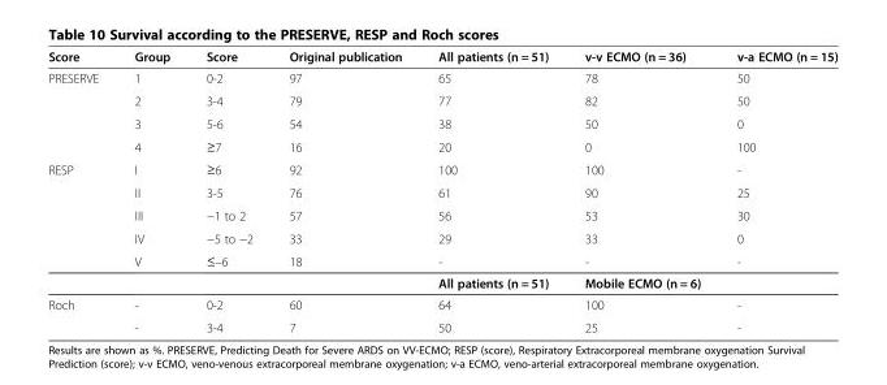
<table><thead><tr><td>Score</td><td>Group</td><td>Score</td><td>Original publication</td><td>All patients (n = 51)</td><td>v-v ECMO (n = 36)</td><td>v-a ECMO (n = 15)</td></tr></thead><tbody><tr><td rowspan="4">PRESERVE</td><td>1</td><td>0-2</td><td>97</td><td>65</td><td>78</td><td>50</td></tr><tr><td>2</td><td>3-4</td><td>79</td><td>77</td><td>82</td><td>50</td></tr><tr><td>3</td><td>5-6</td><td>54</td><td>38</td><td>50</td><td>0</td></tr><tr><td>4</td><td>≥7</td><td>16</td><td>20</td><td>0</td><td>100</td></tr><tr><td rowspan="6">RESP</td><td>I</td><td>≥6</td><td>92</td><td>100</td><td>100</td><td>-</td></tr><tr><td>II</td><td>3-5</td><td>76</td><td>61</td><td>90</td><td>25</td></tr><tr><td>III</td><td>−1 to 2</td><td>57</td><td>56</td><td>53</td><td>30</td></tr><tr><td>IV</td><td>−5 to −2</td><td>33</td><td>29</td><td>33</td><td>0</td></tr><tr><td>V</td><td>≤–6</td><td>18</td><td>-</td><td>-</td><td>-</td></tr><tr><td></td><td></td><td></td><td>All patients (n = 51)</td><td>Mobile ECMO (n = 6)</td><td></td></tr><tr><td rowspan="2">Roch</td><td>-</td><td>0-2</td><td>60</td><td>64</td><td>100</td><td>-</td></tr><tr><td>-</td><td>3-4</td><td>7</td><td>50</td><td>25</td><td>-</td></tr></tbody></table>